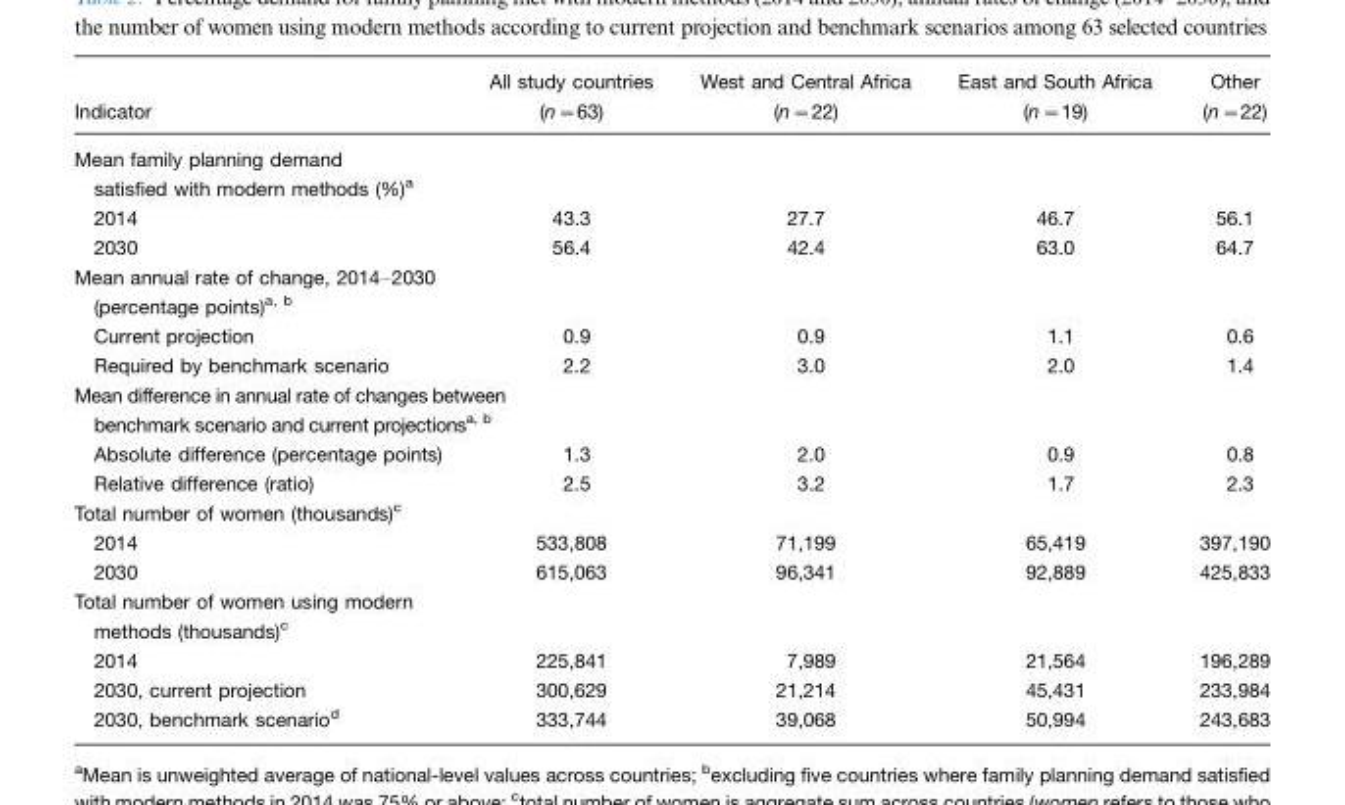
<table><thead><tr><td rowspan="2">Indicator</td><td rowspan="2">All study countries (n=63)</td><td rowspan="2">West and Central Africa (n=22)</td><td rowspan="2">East and South Africa (n=19)</td><td rowspan="2">Other (n=22)</td></tr><tr></tr></thead><tbody><tr><td colspan="5">Mean family planning demand satisfied with modern methods (%)<sup>a</sup></td></tr><tr><td>2014</td><td>43.3</td><td>27.7</td><td>46.7</td><td>56.1</td></tr><tr><td>2030</td><td>56.4</td><td>42.4</td><td>63.0</td><td>64.7</td></tr><tr><td colspan="5">Mean annual rate of change, 2014�2030 (percentage points)a, b</td></tr><tr><td>Current projection</td><td>0.9</td><td>0.9</td><td>1.1</td><td>0.6</td></tr><tr><td>Required by benchmark scenario</td><td>2.2</td><td>3.0</td><td>2.0</td><td>1.4</td></tr><tr><td colspan="5">Mean difference in annual rate of changes between benchmark scenario and current projectionsa, b</td></tr><tr><td>Absolute difference (percentage points)</td><td>1.3</td><td>2.0</td><td>0.9</td><td>0.8</td></tr><tr><td>Relative difference (ratio)</td><td>2.5</td><td>3.2</td><td>1.7</td><td>2.3</td></tr><tr><td colspan="5">Total number of women (thousands)<sup>c</sup></td></tr><tr><td>2014</td><td>533,808</td><td>71,199</td><td>65,419</td><td>397,190</td></tr><tr><td>2030</td><td>615,063</td><td>96,341</td><td>92,889</td><td>425,833</td></tr><tr><td colspan="5">Total number of women using modern methods (thousands)<sup>c</sup></td></tr><tr><td>2014</td><td>225,841</td><td>7,989</td><td>21,564</td><td>196,289</td></tr><tr><td>2030, current projection</td><td>300,629</td><td>21,214</td><td>45,431</td><td>233,984</td></tr><tr><td>2030, benchmark scenario<sup>d</sup></td><td>333,744</td><td>39,068</td><td>50,994</td><td>243,683</td></tr></tbody></table>